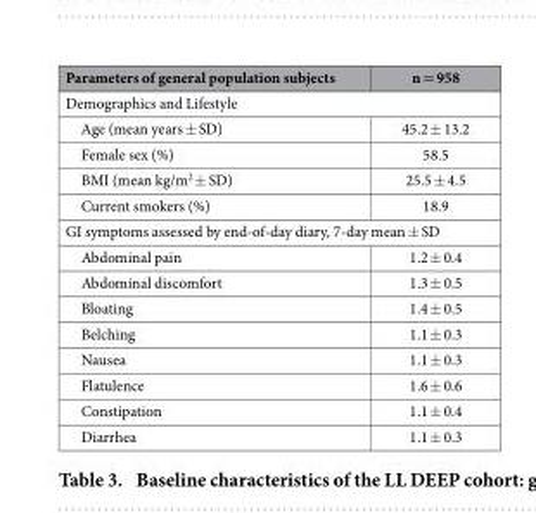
<table><thead><tr><td>Parameters of general population subjects</td><td>n = 958</td></tr></thead><tbody><tr><td colspan="2">Demographics and Lifestyle</td></tr><tr><td>Age (mean years ± SD)</td><td>45.2 ± 13.2</td></tr><tr><td>Female sex (%)</td><td>58.5</td></tr><tr><td>BMI (mean kg/m<sup>2</sup> ± SD)</td><td>25.5 ± 4.5</td></tr><tr><td>Current smokers (%)</td><td>18.9</td></tr><tr><td colspan="2">GI symptoms assessed by end-of-day diary, 7-day mean ± SD</td></tr><tr><td>Abdominal pain</td><td>1.2 ± 0.4</td></tr><tr><td>Abdominal discomfort</td><td>1.3 ± 0.5</td></tr><tr><td>Bloating</td><td>1.4 ± 0.5</td></tr><tr><td>Belching</td><td>1.1 ± 0.3</td></tr><tr><td>Nausea</td><td>1.1 ± 0.3</td></tr><tr><td>Flatulence</td><td>1.6 ± 0.6</td></tr><tr><td>Constipation</td><td>1.1 ± 0.4</td></tr><tr><td>Diarrhea</td><td>1.1 ± 0.3</td></tr></tbody></table>